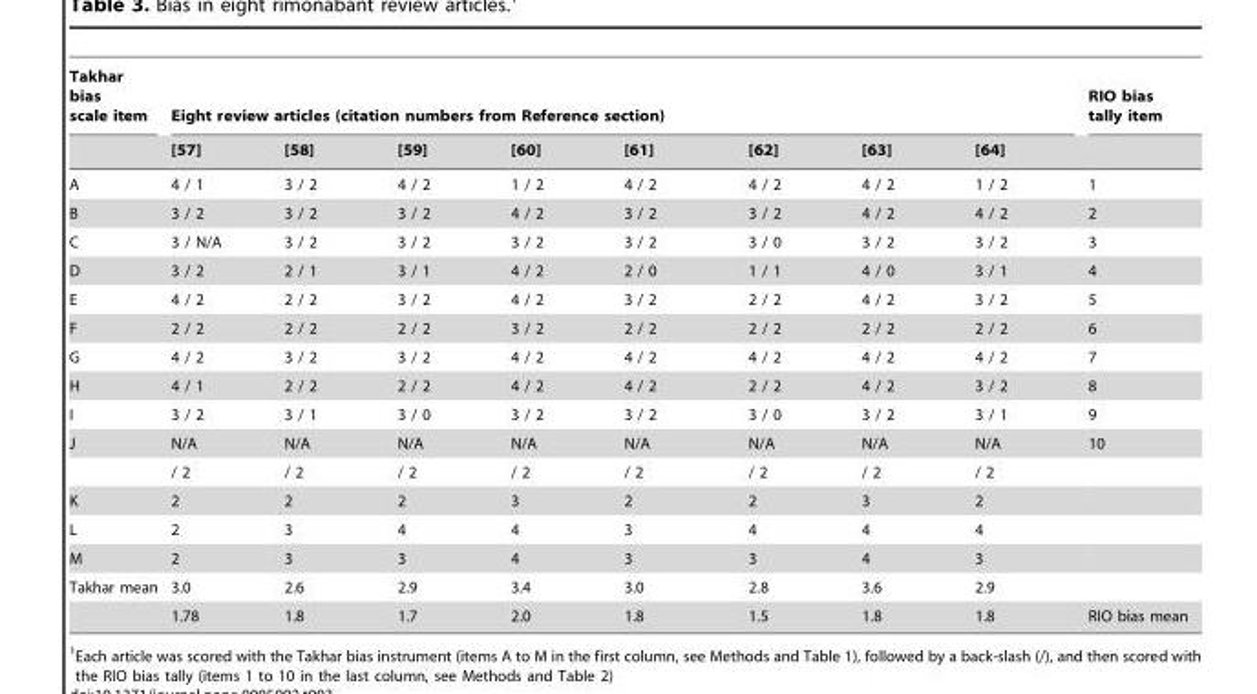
<table><thead><tr><td rowspan="2">Takhar bias scale item</td><td colspan="8">Eight review articles (citation numbers from Reference section)</td><td rowspan="2">RIO bias tally item</td></tr><tr><td>[57]</td><td>[58]</td><td>[59]</td><td>[60]</td><td>[61]</td><td>[62]</td><td>[63]</td><td>[64]</td></tr></thead><tbody><tr><td>A</td><td>4 / 1</td><td>3 / 2</td><td>4 / 2</td><td>1 / 2</td><td>4 / 2</td><td>4 / 2</td><td>4 / 2</td><td>1 / 2</td><td>1</td></tr><tr><td>B</td><td>3 / 2</td><td>3 / 2</td><td>3 / 2</td><td>4 / 2</td><td>3 / 2</td><td>3 / 2</td><td>4 / 2</td><td>4 / 2</td><td>2</td></tr><tr><td>C</td><td>3 / N/A</td><td>3 / 2</td><td>3 / 2</td><td>3 / 2</td><td>3 / 2</td><td>3 / 0</td><td>3 / 2</td><td>3 / 2</td><td>3</td></tr><tr><td>D</td><td>3 / 2</td><td>2 / 1</td><td>3 / 1</td><td>4 / 2</td><td>2 / 0</td><td>1 / 1</td><td>4 / 0</td><td>3 / 1</td><td>4</td></tr><tr><td>E</td><td>4 / 2</td><td>2 / 2</td><td>3 / 2</td><td>4 / 2</td><td>3 / 2</td><td>2 / 2</td><td>4 / 2</td><td>3 / 2</td><td>5</td></tr><tr><td>F</td><td>2 / 2</td><td>2 / 2</td><td>2 / 2</td><td>3 / 2</td><td>2 / 2</td><td>2 / 2</td><td>2 / 2</td><td>2 / 2</td><td>6</td></tr><tr><td>G</td><td>4 / 2</td><td>3 / 2</td><td>3 / 2</td><td>4 / 2</td><td>4 / 2</td><td>4 / 2</td><td>4 / 2</td><td>4 / 2</td><td>7</td></tr><tr><td>H</td><td>4 / 1</td><td>2 / 2</td><td>2 / 2</td><td>4 / 2</td><td>4 / 2</td><td>2 / 2</td><td>4 / 2</td><td>3 / 2</td><td>8</td></tr><tr><td>I</td><td>3 / 2</td><td>3 / 1</td><td>3 / 0</td><td>3 / 2</td><td>3 / 2</td><td>3 / 0</td><td>3 / 2</td><td>3 / 1</td><td>9</td></tr><tr><td rowspan="2">J</td><td>N/A</td><td>N/A</td><td>N/A</td><td>N/A</td><td>N/A</td><td>N/A</td><td>N/A</td><td>N/A</td><td>10</td></tr><tr><td>/ 2</td><td>/ 2</td><td>/ 2</td><td>/ 2</td><td>/ 2</td><td>/ 2</td><td>/ 2</td><td>/ 2</td><td></td></tr><tr><td>K</td><td>2</td><td>2</td><td>2</td><td>3</td><td>2</td><td>2</td><td>3</td><td>2</td><td></td></tr><tr><td>L</td><td>2</td><td>3</td><td>4</td><td>4</td><td>3</td><td>4</td><td>4</td><td>4</td><td></td></tr><tr><td>M</td><td>2</td><td>3</td><td>3</td><td>4</td><td>3</td><td>3</td><td>4</td><td>3</td><td></td></tr><tr><td rowspan="2">Takhar mean</td><td>3.0</td><td>2.6</td><td>2.9</td><td>3.4</td><td>3.0</td><td>2.8</td><td>3.6</td><td>2.9</td><td></td></tr><tr><td>1.78</td><td>1.8</td><td>1.7</td><td>2.0</td><td>1.8</td><td>1.5</td><td>1.8</td><td>1.8</td><td>RIO bias mean</td></tr></tbody></table>